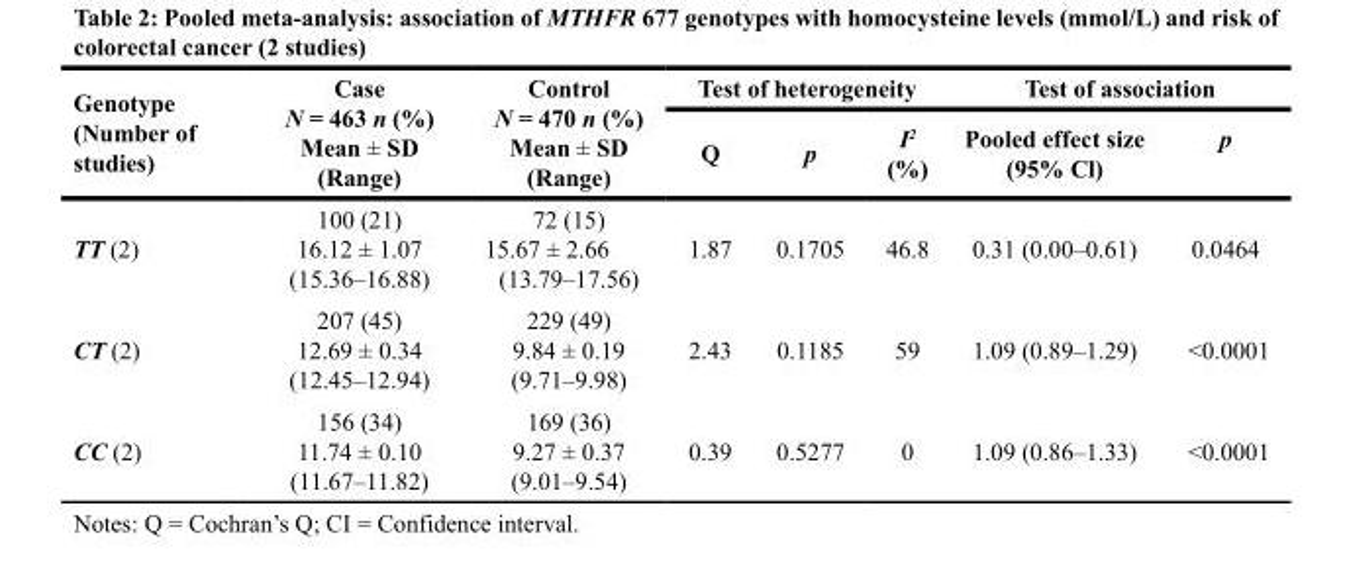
<table><thead><tr><td rowspan="2">Genotype (Number of studies)</td><td rowspan="2">Case N = 463 n (%) Mean ± SD (Range)</td><td rowspan="2">Control N = 470 n (%) Mean ± SD (Range)</td><td colspan="3">Test of heterogeneity</td><td colspan="2">Test of association</td></tr><tr><td>Q</td><td>p</td><td>I<sup>2</sup> (%)</td><td>Pooled effect size (95% Cl)</td><td>p</td></tr></thead><tbody><tr><td>TT (2)</td><td>100 (21) 16.12 ± 1.07 (15.36–16.88)</td><td>72 (15) 15.67 ± 2.66 (13.79–17.56)</td><td>1.87</td><td>0.1705</td><td>46.8</td><td>0.31 (0.00–0.61)</td><td>0.0464</td></tr><tr><td>CT (2)</td><td>207 (45) 12.69 ± 0.34 (12.45–12.94)</td><td>229 (49) 9.84 ± 0.19 (9.71–9.98)</td><td>2.43</td><td>0.1185</td><td>59</td><td>1.09 (0.89–1.29)</td><td>&lt;0.0001</td></tr><tr><td>CC (2)</td><td>156 (34) 11.74 ± 0.10 (11.67–11.82)</td><td>169 (36) 9.27 ± 0.37 (9.01–9.54)</td><td>0.39</td><td>0.5277</td><td>0</td><td>1.09 (0.86–1.33)</td><td>&lt;0.0001</td></tr></tbody></table>